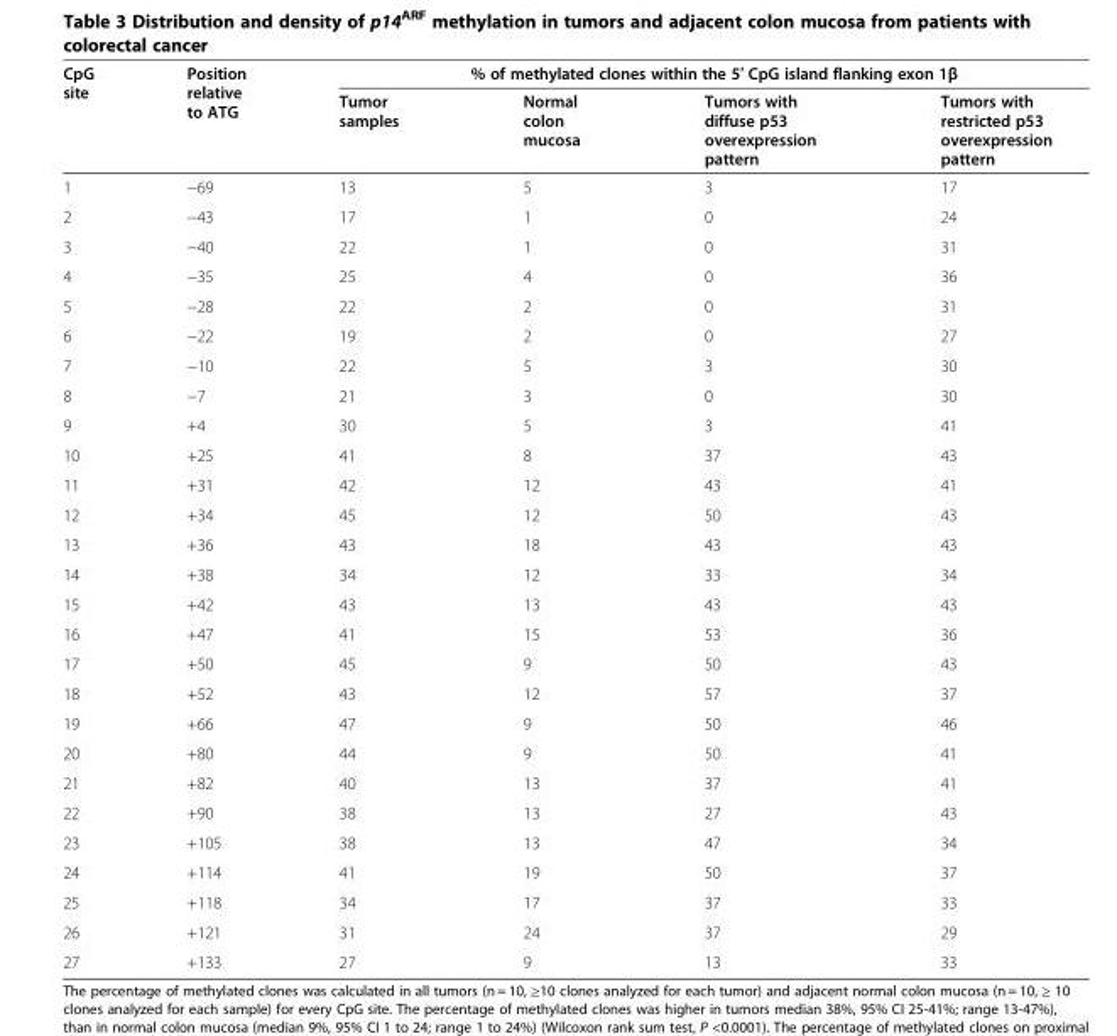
<table><thead><tr><td rowspan="2">CpG site</td><td rowspan="2">Position relative to ATG</td><td colspan="4">% of methylated clones within the 5′ CpG island flanking exon 1β</td></tr><tr><td>Tumor samples</td><td>Normal colon mucosa</td><td>Tumors with diffuse p53 overexpression pattern</td><td>Tumors with restricted p53 overexpression pattern</td></tr></thead><tbody><tr><td>1</td><td>−69</td><td>13</td><td>5</td><td>3</td><td>17</td></tr><tr><td>2</td><td>−43</td><td>17</td><td>1</td><td>0</td><td>24</td></tr><tr><td>3</td><td>−40</td><td>22</td><td>1</td><td>0</td><td>31</td></tr><tr><td>4</td><td>−35</td><td>25</td><td>4</td><td>0</td><td>36</td></tr><tr><td>5</td><td>−28</td><td>22</td><td>2</td><td>0</td><td>31</td></tr><tr><td>6</td><td>−22</td><td>19</td><td>2</td><td>0</td><td>27</td></tr><tr><td>7</td><td>−10</td><td>22</td><td>5</td><td>3</td><td>30</td></tr><tr><td>8</td><td>−7</td><td>21</td><td>3</td><td>0</td><td>30</td></tr><tr><td>9</td><td>+4</td><td>30</td><td>5</td><td>3</td><td>41</td></tr><tr><td>10</td><td>+25</td><td>41</td><td>8</td><td>37</td><td>43</td></tr><tr><td>11</td><td>+31</td><td>42</td><td>12</td><td>43</td><td>41</td></tr><tr><td>12</td><td>+34</td><td>45</td><td>12</td><td>50</td><td>43</td></tr><tr><td>13</td><td>+36</td><td>43</td><td>18</td><td>43</td><td>43</td></tr><tr><td>14</td><td>+38</td><td>34</td><td>12</td><td>33</td><td>34</td></tr><tr><td>15</td><td>+42</td><td>43</td><td>13</td><td>43</td><td>43</td></tr><tr><td>16</td><td>+47</td><td>41</td><td>15</td><td>53</td><td>36</td></tr><tr><td>17</td><td>+50</td><td>45</td><td>9</td><td>50</td><td>43</td></tr><tr><td>18</td><td>+52</td><td>43</td><td>12</td><td>57</td><td>37</td></tr><tr><td>19</td><td>+66</td><td>47</td><td>9</td><td>50</td><td>46</td></tr><tr><td>20</td><td>+80</td><td>44</td><td>9</td><td>50</td><td>41</td></tr><tr><td>21</td><td>+82</td><td>40</td><td>13</td><td>37</td><td>41</td></tr><tr><td>22</td><td>+90</td><td>38</td><td>13</td><td>27</td><td>43</td></tr><tr><td>23</td><td>+105</td><td>38</td><td>13</td><td>47</td><td>34</td></tr><tr><td>24</td><td>+114</td><td>41</td><td>19</td><td>50</td><td>37</td></tr><tr><td>25</td><td>+118</td><td>34</td><td>17</td><td>37</td><td>33</td></tr><tr><td>26</td><td>+121</td><td>31</td><td>24</td><td>37</td><td>29</td></tr><tr><td>27</td><td>+133</td><td>27</td><td>9</td><td>13</td><td>33</td></tr></tbody></table>